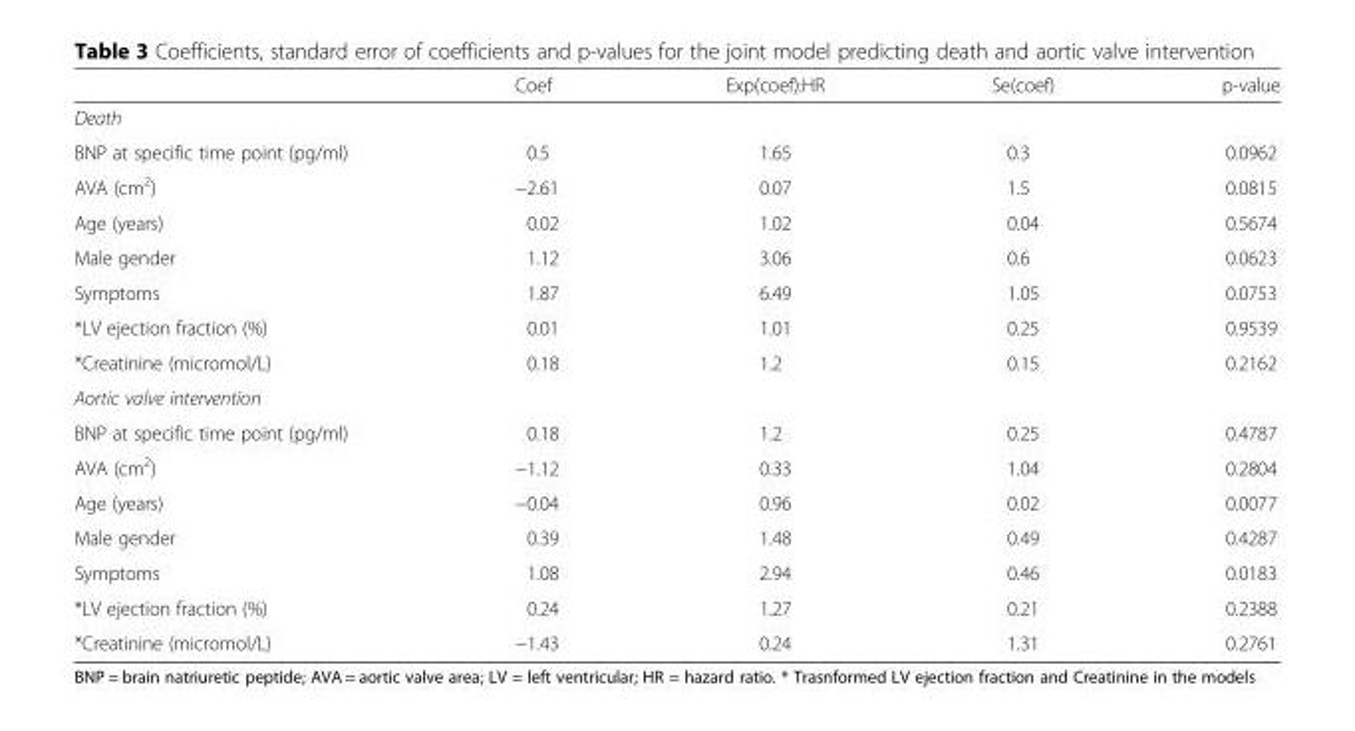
<table><thead><tr><td></td><td>Coef</td><td>Exp(coef):HR</td><td>Se(coef)</td><td>p-value</td></tr></thead><tbody><tr><td colspan="5">Death</td></tr><tr><td>BNP at specific time point (pg/ml)</td><td>0.5</td><td>1.65</td><td>0.3</td><td>0.0962</td></tr><tr><td>AVA (cm<sup>2</sup>)</td><td>−2.61</td><td>0.07</td><td>1.5</td><td>0.0815</td></tr><tr><td>Age (years)</td><td>0.02</td><td>1.02</td><td>0.04</td><td>0.5674</td></tr><tr><td>Male gender</td><td>1.12</td><td>3.06</td><td>0.6</td><td>0.0623</td></tr><tr><td>Symptoms</td><td>1.87</td><td>6.49</td><td>1.05</td><td>0.0753</td></tr><tr><td>*LV ejection fraction (%)</td><td>0.01</td><td>1.01</td><td>0.25</td><td>0.9539</td></tr><tr><td>*Creatinine (micromol/L)</td><td>0.18</td><td>1.2</td><td>0.15</td><td>0.2162</td></tr><tr><td colspan="5">Aortic valve intervention</td></tr><tr><td>BNP at specific time point (pg/ml)</td><td>0.18</td><td>1.2</td><td>0.25</td><td>0.4787</td></tr><tr><td>AVA (cm<sup>2</sup>)</td><td>−1.12</td><td>0.33</td><td>1.04</td><td>0.2804</td></tr><tr><td>Age (years)</td><td>−0.04</td><td>0.96</td><td>0.02</td><td>0.0077</td></tr><tr><td>Male gender</td><td>0.39</td><td>1.48</td><td>0.49</td><td>0.4287</td></tr><tr><td>Symptoms</td><td>1.08</td><td>2.94</td><td>0.46</td><td>0.0183</td></tr><tr><td>*LV ejection fraction (%)</td><td>0.24</td><td>1.27</td><td>0.21</td><td>0.2388</td></tr><tr><td>*Creatinine (micromol/L)</td><td>−1.43</td><td>0.24</td><td>1.31</td><td>0.2761</td></tr></tbody></table>